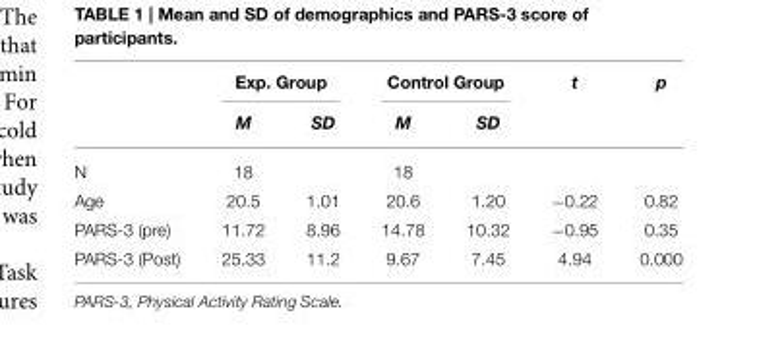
<table><thead><tr><td rowspan="2"></td><td colspan="2">Exp. Group</td><td colspan="2">Control Group</td><td rowspan="2">t</td><td rowspan="2">p</td></tr><tr><td>M</td><td>SD</td><td>M</td><td>SD</td></tr></thead><tbody><tr><td>N</td><td>18</td><td></td><td>18</td><td></td><td></td><td></td></tr><tr><td>Age</td><td>20.5</td><td>1.01</td><td>20.6</td><td>1.20</td><td>−0.22</td><td>0.82</td></tr><tr><td>PARS-3 (pre)</td><td>11.72</td><td>8.96</td><td>14.78</td><td>10.32</td><td>−0.95</td><td>0.35</td></tr><tr><td>PARS-3 (Post)</td><td>25.33</td><td>11.2</td><td>9.67</td><td>7.45</td><td>4.94</td><td>0.000</td></tr></tbody></table>